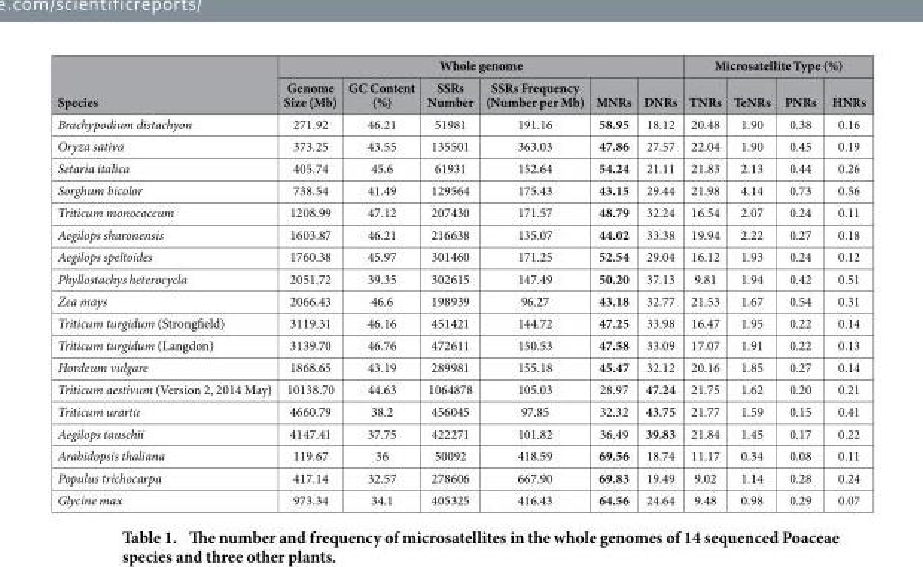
<table><thead><tr><td rowspan="2">Species</td><td colspan="6">Whole genome</td><td colspan="4">Microsatellite Type (%)</td></tr><tr><td>Genome Size (Mb)</td><td>GC Content (%)</td><td>SSRs Number</td><td>SSRs Frequency (Number per Mb)</td><td>MNRs</td><td>DNRs</td><td>TNRs</td><td>TeNRs</td><td>PNRs</td><td>HNRs</td></tr></thead><tbody><tr><td>Brachypodium distachyon</td><td>271.92</td><td>46.21</td><td>51981</td><td>191.16</td><td>58.95</td><td>18.12</td><td>20.48</td><td>1.90</td><td>0.38</td><td>0.16</td></tr><tr><td>Oryza sativa</td><td>373.25</td><td>43.55</td><td>135501</td><td>363.03</td><td>47.86</td><td>27.57</td><td>22.04</td><td>1.90</td><td>0.45</td><td>0.19</td></tr><tr><td>Setaria italica</td><td>405.74</td><td>45.6</td><td>61931</td><td>152.64</td><td>54.24</td><td>21.11</td><td>21.83</td><td>2.13</td><td>0.44</td><td>0.26</td></tr><tr><td>Sorghum bicolor</td><td>738.54</td><td>41.49</td><td>129564</td><td>175.43</td><td>43.15</td><td>29.44</td><td>21.98</td><td>4.14</td><td>0.73</td><td>0.56</td></tr><tr><td>Triticum monococcum</td><td>1208.99</td><td>47.12</td><td>207430</td><td>171.57</td><td>48.79</td><td>32.24</td><td>16.54</td><td>2.07</td><td>0.24</td><td>0.11</td></tr><tr><td>Aegilops sharonensis</td><td>1603.87</td><td>46.21</td><td>216638</td><td>135.07</td><td>44.02</td><td>33.38</td><td>19.94</td><td>2.22</td><td>0.27</td><td>0.18</td></tr><tr><td>Aegilops speltoides</td><td>1760.38</td><td>45.97</td><td>301460</td><td>171.25</td><td>52.54</td><td>29.04</td><td>16.12</td><td>1.93</td><td>0.24</td><td>0.12</td></tr><tr><td>Phyllostachys heterocycla</td><td>2051.72</td><td>39.35</td><td>302615</td><td>147.49</td><td>50.20</td><td>37.13</td><td>9.81</td><td>1.94</td><td>0.42</td><td>0.51</td></tr><tr><td>Zea mays</td><td>2066.43</td><td>46.6</td><td>198939</td><td>96.27</td><td>43.18</td><td>32.77</td><td>21.53</td><td>1.67</td><td>0.54</td><td>0.31</td></tr><tr><td>Triticum turgidum (Strongfield)</td><td>3119.31</td><td>46.16</td><td>451421</td><td>144.72</td><td>47.25</td><td>33.98</td><td>16.47</td><td>1.95</td><td>0.22</td><td>0.14</td></tr><tr><td>Triticum turgidum (Langdon)</td><td>3139.70</td><td>46.76</td><td>472611</td><td>150.53</td><td>47.58</td><td>33.09</td><td>17.07</td><td>1.91</td><td>0.22</td><td>0.13</td></tr><tr><td>Hordeum vulgare</td><td>1868.65</td><td>43.19</td><td>289981</td><td>155.18</td><td>45.47</td><td>32.12</td><td>20.16</td><td>1.85</td><td>0.27</td><td>0.14</td></tr><tr><td>Triticum aestivum (Version 2, 2014 May)</td><td>10138.70</td><td>44.63</td><td>1064878</td><td>105.03</td><td>28.97</td><td>47.24</td><td>21.75</td><td>1.62</td><td>0.20</td><td>0.21</td></tr><tr><td>Triticum urartu</td><td>4660.79</td><td>38.2</td><td>456045</td><td>97.85</td><td>32.32</td><td>43.75</td><td>21.77</td><td>1.59</td><td>0.15</td><td>0.41</td></tr><tr><td>Aegilops tauschii</td><td>4147.41</td><td>37.75</td><td>422271</td><td>101.82</td><td>36.49</td><td>39.83</td><td>21.84</td><td>1.45</td><td>0.17</td><td>0.22</td></tr><tr><td>Arabidopsis thaliana</td><td>119.67</td><td>36</td><td>50092</td><td>418.59</td><td>69.56</td><td>18.74</td><td>11.17</td><td>0.34</td><td>0.08</td><td>0.11</td></tr><tr><td>Populus trichocarpa</td><td>417.14</td><td>32.57</td><td>278606</td><td>667.90</td><td>69.83</td><td>19.49</td><td>9.02</td><td>1.14</td><td>0.28</td><td>0.24</td></tr><tr><td>Glycine max</td><td>973.34</td><td>34.1</td><td>405325</td><td>416.43</td><td>64.56</td><td>24.64</td><td>9.48</td><td>0.98</td><td>0.29</td><td>0.07</td></tr></tbody></table>